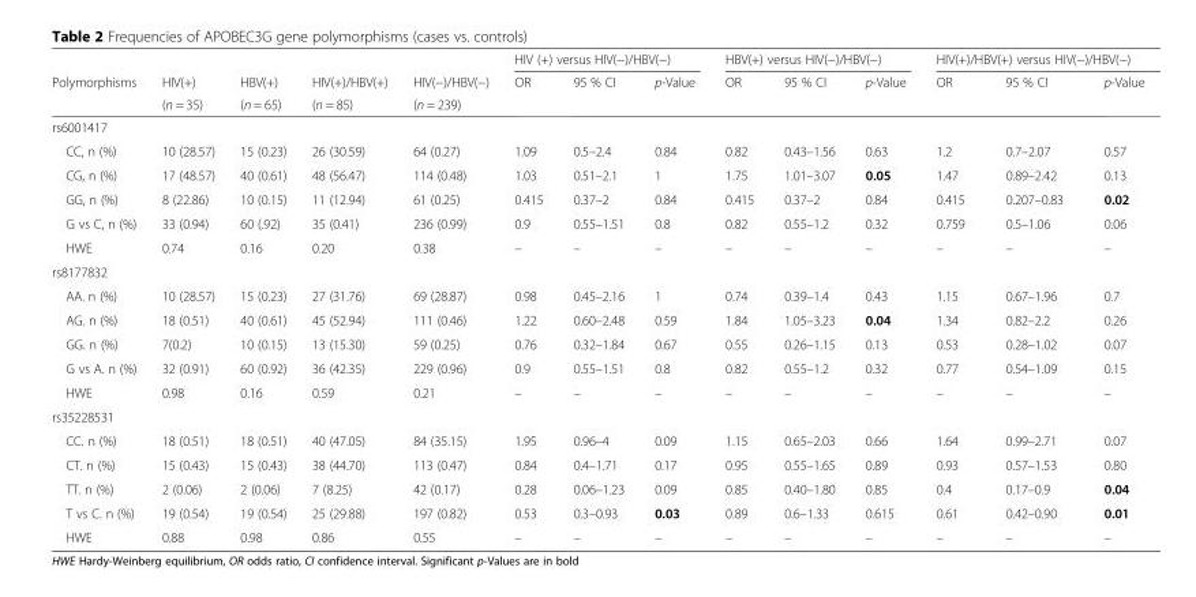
<table><thead><tr><td rowspan="3">Polymorphisms</td><td rowspan="3">HIV(+) (n = 35)</td><td rowspan="3">HBV(+) (n = 65)</td><td rowspan="3">HIV(+)/HBV(+) (n = 85)</td><td rowspan="3">HIV(−)/HBV(−) (n = 239)</td><td colspan="3">HIV (+) versus HIV(−)/HBV(−)</td><td colspan="3">HBV(+) versus HIV(−)/HBV(−)</td><td colspan="3">HIV(+)/HBV(+) versus HIV(−)/HBV(−)</td></tr><tr><td rowspan="2">OR</td><td rowspan="2">95 % CI</td><td rowspan="2">p-Value</td><td rowspan="2">OR</td><td rowspan="2">95 % CI</td><td rowspan="2">p-Value</td><td rowspan="2">OR</td><td rowspan="2">95 % CI</td><td rowspan="2">p-Value</td></tr><tr></tr></thead><tbody><tr><td colspan="14">rs6001417</td></tr><tr><td>CC, n (%)</td><td>10 (28.57)</td><td>15 (0.23)</td><td>26 (30.59)</td><td>64 (0.27)</td><td>1.09</td><td>0.5–2.4</td><td>0.84</td><td>0.82</td><td>0.43–1.56</td><td>0.63</td><td>1.2</td><td>0.7–2.07</td><td>0.57</td></tr><tr><td>CG, n (%)</td><td>17 (48.57)</td><td>40 (0.61)</td><td>48 (56.47)</td><td>114 (0.48)</td><td>1.03</td><td>0.51–2.1</td><td>1</td><td>1.75</td><td>1.01–3.07</td><td>0.05</td><td>1.47</td><td>0.89–2.42</td><td>0.13</td></tr><tr><td>GG, n (%)</td><td>8 (22.86)</td><td>10 (0.15)</td><td>11 (12.94)</td><td>61 (0.25)</td><td>0.415</td><td>0.37–2</td><td>0.84</td><td>0.415</td><td>0.37–2</td><td>0.84</td><td>0.415</td><td>0.207–0.83</td><td>0.02</td></tr><tr><td>G vs C, n (%)</td><td>33 (0.94)</td><td>60 (.92)</td><td>35 (0.41)</td><td>236 (0.99)</td><td>0.9</td><td>0.55–1.51</td><td>0.8</td><td>0.82</td><td>0.55–1.2</td><td>0.32</td><td>0.759</td><td>0.5–1.06</td><td>0.06</td></tr><tr><td>HWE</td><td>0.74</td><td>0.16</td><td>0.20</td><td>0.38</td><td>–</td><td>–</td><td>–</td><td>–</td><td>–</td><td>–</td><td>–</td><td>–</td><td>–</td></tr><tr><td colspan="14">rs8177832</td></tr><tr><td>AA. n (%)</td><td>10 (28.57)</td><td>15 (0.23)</td><td>27 (31.76)</td><td>69 (28.87)</td><td>0.98</td><td>0.45–2.16</td><td>1</td><td>0.74</td><td>0.39–1.4</td><td>0.43</td><td>1.15</td><td>0.67–1.96</td><td>0.7</td></tr><tr><td>AG. n (%)</td><td>18 (0.51)</td><td>40 (0.61)</td><td>45 (52.94)</td><td>111 (0.46)</td><td>1.22</td><td>0.60–2.48</td><td>0.59</td><td>1.84</td><td>1.05–3.23</td><td>0.04</td><td>1.34</td><td>0.82–2.2</td><td>0.26</td></tr><tr><td>GG. n (%)</td><td>7(0.2)</td><td>10 (0.15)</td><td>13 (15.30)</td><td>59 (0.25)</td><td>0.76</td><td>0.32–1.84</td><td>0.67</td><td>0.55</td><td>0.26–1.15</td><td>0.13</td><td>0.53</td><td>0.28–1.02</td><td>0.07</td></tr><tr><td>G vs A. n (%)</td><td>32 (0.91)</td><td>60 (0.92)</td><td>36 (42.35)</td><td>229 (0.96)</td><td>0.9</td><td>0.55–1.51</td><td>0.8</td><td>0.82</td><td>0.55–1.2</td><td>0.32</td><td>0.77</td><td>0.54–1.09</td><td>0.15</td></tr><tr><td>HWE</td><td>0.98</td><td>0.16</td><td>0.59</td><td>0.21</td><td>–</td><td>–</td><td>–</td><td>–</td><td>–</td><td>–</td><td>–</td><td>–</td><td>–</td></tr><tr><td colspan="14">rs35228531</td></tr><tr><td>CC. n (%)</td><td>18 (0.51)</td><td>18 (0.51)</td><td>40 (47.05)</td><td>84 (35.15)</td><td>1.95</td><td>0.96–4</td><td>0.09</td><td>1.15</td><td>0.65–2.03</td><td>0.66</td><td>1.64</td><td>0.99–2.71</td><td>0.07</td></tr><tr><td>CT. n (%)</td><td>15 (0.43)</td><td>15 (0.43)</td><td>38 (44.70)</td><td>113 (0.47)</td><td>0.84</td><td>0.4–1.71</td><td>0.17</td><td>0.95</td><td>0.55–1.65</td><td>0.89</td><td>0.93</td><td>0.57–1.53</td><td>0.80</td></tr><tr><td>TT. n (%)</td><td>2 (0.06)</td><td>2 (0.06)</td><td>7 (8.25)</td><td>42 (0.17)</td><td>0.28</td><td>0.06–1.23</td><td>0.09</td><td>0.85</td><td>0.40–1.80</td><td>0.85</td><td>0.4</td><td>0.17–0.9</td><td>0.04</td></tr><tr><td>T vs C. n (%)</td><td>19 (0.54)</td><td>19 (0.54)</td><td>25 (29.88)</td><td>197 (0.82)</td><td>0.53</td><td>0.3–0.93</td><td>0.03</td><td>0.89</td><td>0.6–1.33</td><td>0.615</td><td>0.61</td><td>0.42–0.90</td><td>0.01</td></tr><tr><td>HWE</td><td>0.88</td><td>0.98</td><td>0.86</td><td>0.55</td><td>–</td><td>–</td><td>–</td><td>–</td><td>–</td><td>–</td><td>–</td><td>–</td><td>–</td></tr></tbody></table>